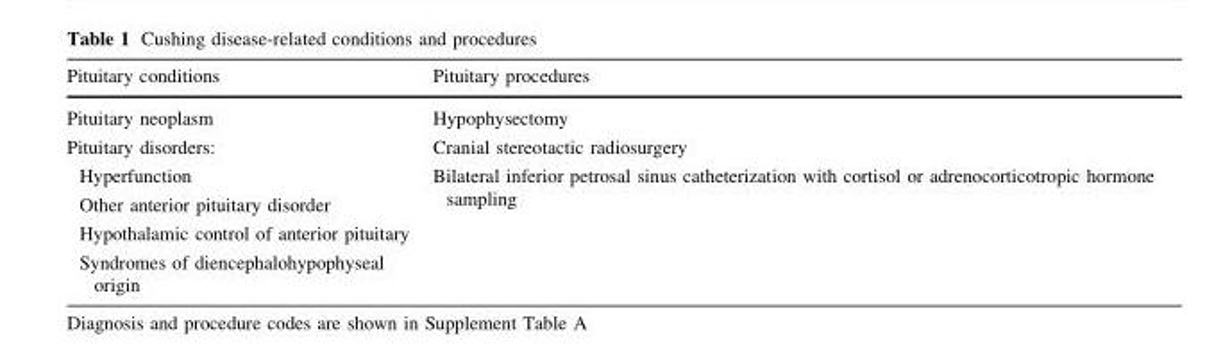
<table><thead><tr><td>Pituitary conditions</td><td>Pituitary procedures</td></tr></thead><tbody><tr><td>Pituitary neoplasm</td><td>Hypophysectomy</td></tr><tr><td>Pituitary disorders:</td><td>Cranial stereotactic radiosurgery</td></tr><tr><td>Hyperfunction</td><td rowspan="4">Bilateral inferior petrosal sinus catheterization with cortisol or adrenocorticotropic hormone sampling</td></tr><tr><td>Other anterior pituitary disorder</td></tr><tr><td>Hypothalamic control of anterior pituitary</td></tr><tr><td>Syndromes of diencephalohypophyseal origin</td></tr></tbody></table>